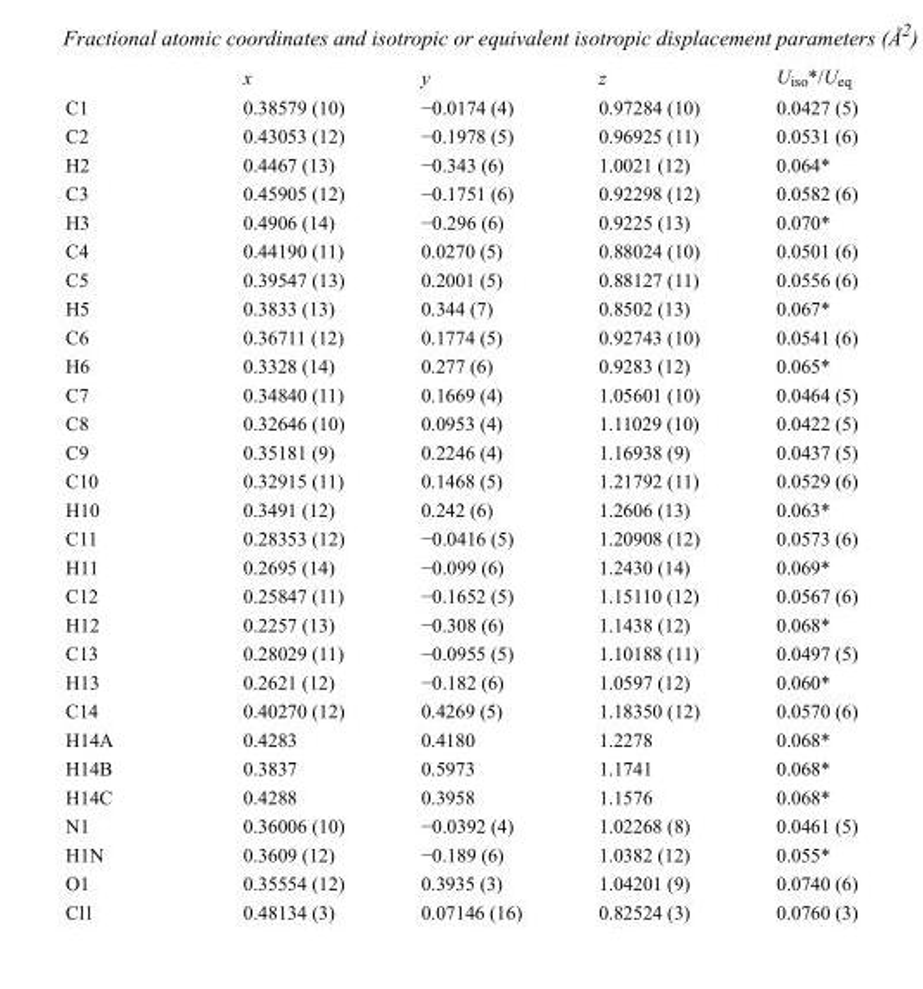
<table><thead><tr><td></td><td>x</td><td>y</td><td>z</td><td>U<sub>iso</sub>*/U<sub>eq</sub></td></tr></thead><tbody><tr><td>C1</td><td>0.38579 (10)</td><td>−0.0174 (4)</td><td>0.97284 (10)</td><td>0.0427 (5)</td></tr><tr><td>C2</td><td>0.43053 (12)</td><td>−0.1978 (5)</td><td>0.96925 (11)</td><td>0.0531 (6)</td></tr><tr><td>H2</td><td>0.4467 (13)</td><td>−0.343 (6)</td><td>1.0021 (12)</td><td>0.064*</td></tr><tr><td>C3</td><td>0.45905 (12)</td><td>−0.1751 (6)</td><td>0.92298 (12)</td><td>0.0582 (6)</td></tr><tr><td>H3</td><td>0.4906 (14)</td><td>−0.296 (6)</td><td>0.9225 (13)</td><td>0.070*</td></tr><tr><td>C4</td><td>0.44190 (11)</td><td>0.0270 (5)</td><td>0.88024 (10)</td><td>0.0501 (6)</td></tr><tr><td>C5</td><td>0.39547 (13)</td><td>0.2001 (5)</td><td>0.88127 (11)</td><td>0.0556 (6)</td></tr><tr><td>H5</td><td>0.3833 (13)</td><td>0.344 (7)</td><td>0.8502 (13)</td><td>0.067*</td></tr><tr><td>C6</td><td>0.36711 (12)</td><td>0.1774 (5)</td><td>0.92743 (10)</td><td>0.0541 (6)</td></tr><tr><td>H6</td><td>0.3328 (14)</td><td>0.277 (6)</td><td>0.9283 (12)</td><td>0.065*</td></tr><tr><td>C7</td><td>0.34840 (11)</td><td>0.1669 (4)</td><td>1.05601 (10)</td><td>0.0464 (5)</td></tr><tr><td>C8</td><td>0.32646 (10)</td><td>0.0953 (4)</td><td>1.11029 (10)</td><td>0.0422 (5)</td></tr><tr><td>C9</td><td>0.35181 (9)</td><td>0.2246 (4)</td><td>1.16938 (9)</td><td>0.0437 (5)</td></tr><tr><td>C10</td><td>0.32915 (11)</td><td>0.1468 (5)</td><td>1.21792 (11)</td><td>0.0529 (6)</td></tr><tr><td>H10</td><td>0.3491 (12)</td><td>0.242 (6)</td><td>1.2606 (13)</td><td>0.063*</td></tr><tr><td>C11</td><td>0.28353 (12)</td><td>−0.0416 (5)</td><td>1.20908 (12)</td><td>0.0573 (6)</td></tr><tr><td>H11</td><td>0.2695 (14)</td><td>−0.099 (6)</td><td>1.2430 (14)</td><td>0.069*</td></tr><tr><td>C12</td><td>0.25847 (11)</td><td>−0.1652 (5)</td><td>1.15110 (12)</td><td>0.0567 (6)</td></tr><tr><td>H12</td><td>0.2257 (13)</td><td>−0.308 (6)</td><td>1.1438 (12)</td><td>0.068*</td></tr><tr><td>C13</td><td>0.28029 (11)</td><td>−0.0955 (5)</td><td>1.10188 (11)</td><td>0.0497 (5)</td></tr><tr><td>H13</td><td>0.2621 (12)</td><td>−0.182 (6)</td><td>1.0597 (12)</td><td>0.060*</td></tr><tr><td>C14</td><td>0.40270 (12)</td><td>0.4269 (5)</td><td>1.18350 (12)</td><td>0.0570 (6)</td></tr><tr><td>H14A</td><td>0.4283</td><td>0.4180</td><td>1.2278</td><td>0.068*</td></tr><tr><td>H14B</td><td>0.3837</td><td>0.5973</td><td>1.1741</td><td>0.068*</td></tr><tr><td>H14C</td><td>0.4288</td><td>0.3958</td><td>1.1576</td><td>0.068*</td></tr><tr><td>N1</td><td>0.36006 (10)</td><td>−0.0392 (4)</td><td>1.02268 (8)</td><td>0.0461 (5)</td></tr><tr><td>H1N</td><td>0.3609 (12)</td><td>−0.189 (6)</td><td>1.0382 (12)</td><td>0.055*</td></tr><tr><td>O1</td><td>0.35554 (12)</td><td>0.3935 (3)</td><td>1.04201 (9)</td><td>0.0740 (6)</td></tr><tr><td>Cl1</td><td>0.48134 (3)</td><td>0.07146 (16)</td><td>0.82524 (3)</td><td>0.0760 (3)</td></tr></tbody></table>